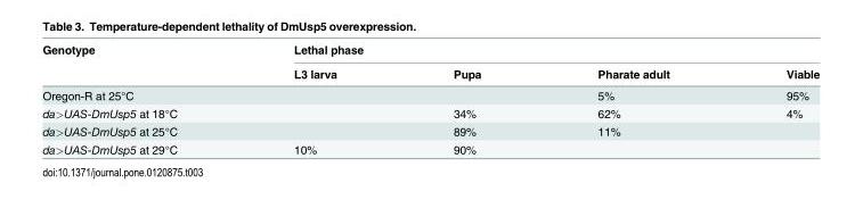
<table><thead><tr><td rowspan="2">Genotype</td><td colspan="4">Lethal phase</td></tr><tr><td>L3 larva</td><td>Pupa</td><td>Pharate adult</td><td>Viable</td></tr></thead><tbody><tr><td>Oregon-R at 25°C</td><td></td><td></td><td>5%</td><td>95%</td></tr><tr><td>da&gt;UAS-DmUsp5 at 18°C</td><td></td><td>34%</td><td>62%</td><td>4%</td></tr><tr><td>da&gt;UAS-DmUsp5 at 25°C</td><td></td><td>89%</td><td>11%</td><td></td></tr><tr><td>da&gt;UAS-DmUsp5 at 29°C</td><td>10%</td><td>90%</td><td></td><td></td></tr></tbody></table>